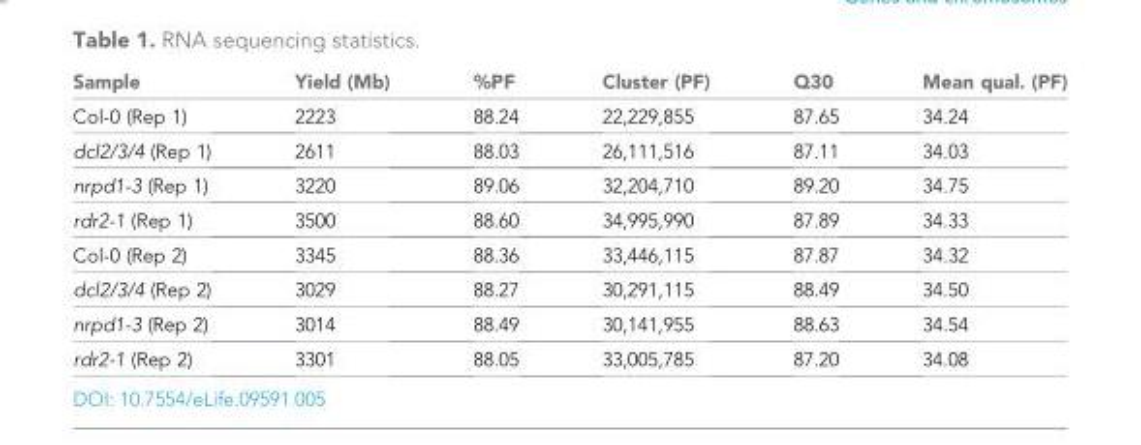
<table><thead><tr><td>Sample</td><td>Yield (Mb)</td><td>%PF</td><td>Cluster (PF)</td><td>Q30</td><td>Mean qual. (PF)</td></tr></thead><tbody><tr><td>Col-0 (Rep 1)</td><td>2223</td><td>88.24</td><td>22,229,855</td><td>87.65</td><td>34.24</td></tr><tr><td>dcl2/3/4 (Rep 1)</td><td>2611</td><td>88.03</td><td>26,111,516</td><td>87.11</td><td>34.03</td></tr><tr><td>nrpd1-3 (Rep 1)</td><td>3220</td><td>89.06</td><td>32,204,710</td><td>89.20</td><td>34.75</td></tr><tr><td>rdr2-1 (Rep 1)</td><td>3500</td><td>88.60</td><td>34,995,990</td><td>87.89</td><td>34.33</td></tr><tr><td>Col-0 (Rep 2)</td><td>3345</td><td>88.36</td><td>33,446,115</td><td>87.87</td><td>34.32</td></tr><tr><td>dcl2/3/4 (Rep 2)</td><td>3029</td><td>88.27</td><td>30,291,115</td><td>88.49</td><td>34.50</td></tr><tr><td>nrpd1-3 (Rep 2)</td><td>3014</td><td>88.49</td><td>30,141,955</td><td>88.63</td><td>34.54</td></tr><tr><td>rdr2-1 (Rep 2)</td><td>3301</td><td>88.05</td><td>33,005,785</td><td>87.20</td><td>34.08</td></tr></tbody></table>